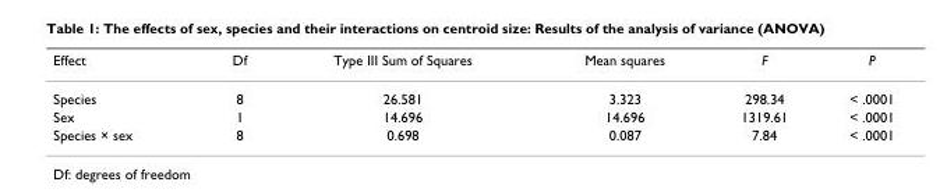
<table><thead><tr><td>Effect</td><td>Df</td><td>Type III Sum of Squares</td><td>Mean squares</td><td>F</td><td>P</td></tr></thead><tbody><tr><td>Species</td><td>8</td><td>26.581</td><td>3.323</td><td>298.34</td><td>&lt; .0001</td></tr><tr><td>Sex</td><td>1</td><td>14.696</td><td>14.696</td><td>1319.61</td><td>&lt; .0001</td></tr><tr><td>Species × sex</td><td>8</td><td>0.698</td><td>0.087</td><td>7.84</td><td>&lt; .0001</td></tr></tbody></table>